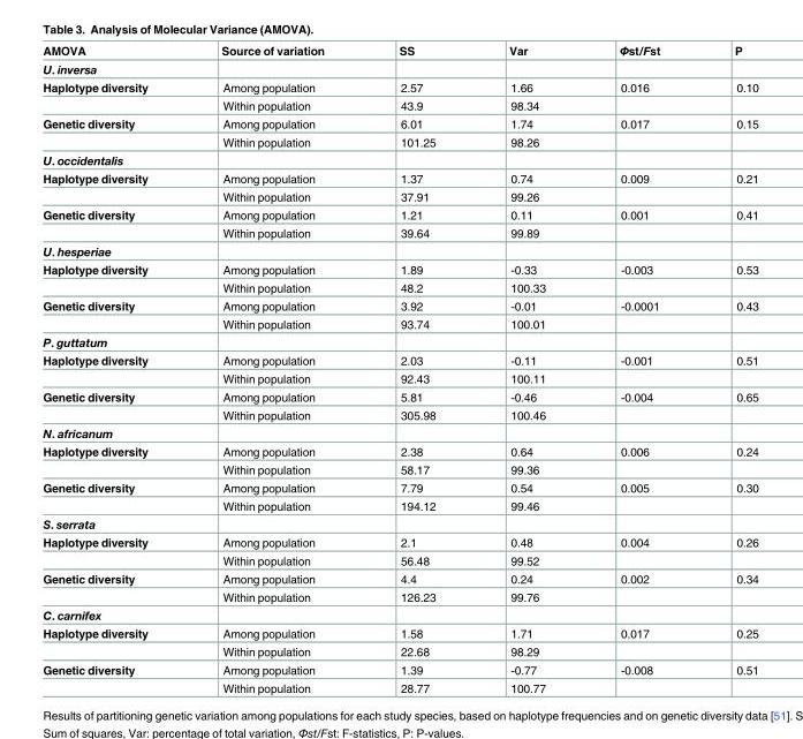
<table><thead><tr><td>AMOVA</td><td>Source of variation</td><td>SS</td><td>Var</td><td>Φst/Fst</td><td>P</td></tr></thead><tbody><tr><td colspan="6">U. inversa</td></tr><tr><td rowspan="2">Haplotype diversity</td><td>Among population</td><td>2.57</td><td>1.66</td><td>0.016</td><td>0.10</td></tr><tr><td>Within population</td><td>43.9</td><td>98.34</td><td></td><td></td></tr><tr><td rowspan="2">Genetic diversity</td><td>Among population</td><td>6.01</td><td>1.74</td><td>0.017</td><td>0.15</td></tr><tr><td>Within population</td><td>101.25</td><td>98.26</td><td></td><td></td></tr><tr><td colspan="6">U. occidentalis</td></tr><tr><td rowspan="2">Haplotype diversity</td><td>Among population</td><td>1.37</td><td>0.74</td><td>0.009</td><td>0.21</td></tr><tr><td>Within population</td><td>37.91</td><td>99.26</td><td></td><td></td></tr><tr><td rowspan="2">Genetic diversity</td><td>Among population</td><td>1.21</td><td>0.11</td><td>0.001</td><td>0.41</td></tr><tr><td>Within population</td><td>39.64</td><td>99.89</td><td></td><td></td></tr><tr><td colspan="6">U. hesperiae</td></tr><tr><td rowspan="2">Haplotype diversity</td><td>Among population</td><td>1.89</td><td>-0.33</td><td>-0.003</td><td>0.53</td></tr><tr><td>Within population</td><td>48.2</td><td>100.33</td><td></td><td></td></tr><tr><td rowspan="2">Genetic diversity</td><td>Among population</td><td>3.92</td><td>-0.01</td><td>-0.0001</td><td>0.43</td></tr><tr><td>Within population</td><td>93.74</td><td>100.01</td><td></td><td></td></tr><tr><td colspan="6">P. guttatum</td></tr><tr><td rowspan="2">Haplotype diversity</td><td>Among population</td><td>2.03</td><td>-0.11</td><td>-0.001</td><td>0.51</td></tr><tr><td>Within population</td><td>92.43</td><td>100.11</td><td></td><td></td></tr><tr><td rowspan="2">Genetic diversity</td><td>Among population</td><td>5.81</td><td>-0.46</td><td>-0.004</td><td>0.65</td></tr><tr><td>Within population</td><td>305.98</td><td>100.46</td><td></td><td></td></tr><tr><td colspan="6">N. africanum</td></tr><tr><td rowspan="2">Haplotype diversity</td><td>Among population</td><td>2.38</td><td>0.64</td><td>0.006</td><td>0.24</td></tr><tr><td>Within population</td><td>58.17</td><td>99.36</td><td></td><td></td></tr><tr><td rowspan="2">Genetic diversity</td><td>Among population</td><td>7.79</td><td>0.54</td><td>0.005</td><td>0.30</td></tr><tr><td>Within population</td><td>194.12</td><td>99.46</td><td></td><td></td></tr><tr><td colspan="6">S. serrata</td></tr><tr><td rowspan="2">Haplotype diversity</td><td>Among population</td><td>2.1</td><td>0.48</td><td>0.004</td><td>0.26</td></tr><tr><td>Within population</td><td>56.48</td><td>99.52</td><td></td><td></td></tr><tr><td rowspan="2">Genetic diversity</td><td>Among population</td><td>4.4</td><td>0.24</td><td>0.002</td><td>0.34</td></tr><tr><td>Within population</td><td>126.23</td><td>99.76</td><td></td><td></td></tr><tr><td colspan="6">C. carnifex</td></tr><tr><td rowspan="2">Haplotype diversity</td><td>Among population</td><td>1.58</td><td>1.71</td><td>0.017</td><td>0.25</td></tr><tr><td>Within population</td><td>22.68</td><td>98.29</td><td></td><td></td></tr><tr><td rowspan="2">Genetic diversity</td><td>Among population</td><td>1.39</td><td>-0.77</td><td>-0.008</td><td>0.51</td></tr><tr><td>Within population</td><td>28.77</td><td>100.77</td><td></td><td></td></tr></tbody></table>